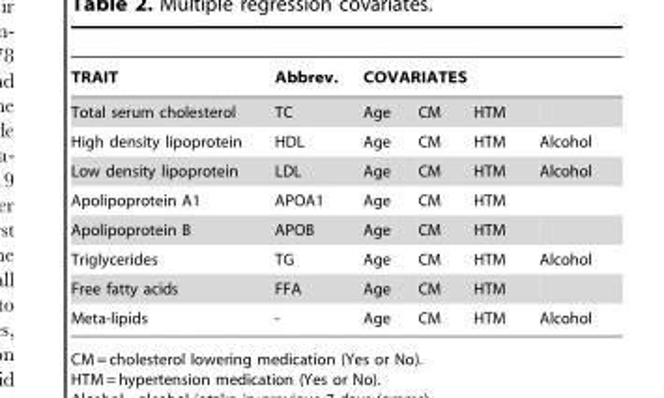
<table><thead><tr><td rowspan="2">TRAIT Total serum cholesterol</td><td rowspan="2">Abbrev. TC</td><td colspan="4">COVARIATES</td></tr><tr><td>Age</td><td>CM</td><td>HTM</td><td></td></tr></thead><tbody><tr><td>High density lipoprotein</td><td>HDL</td><td>Age</td><td>CM</td><td>HTM</td><td>Alcohol</td></tr><tr><td>Low density lipoprotein</td><td>LDL</td><td>Age</td><td>CM</td><td>HTM</td><td>Alcohol</td></tr><tr><td>Apolipoprotein A1</td><td>APOA1</td><td>Age</td><td>CM</td><td>HTM</td><td></td></tr><tr><td>Apolipoprotein B</td><td>APOB</td><td>Age</td><td>CM</td><td>HTM</td><td></td></tr><tr><td>Triglycerides</td><td>TG</td><td>Age</td><td>CM</td><td>HTM</td><td>Alcohol</td></tr><tr><td>Free fatty acids</td><td>FFA</td><td>Age</td><td>CM</td><td>HTM</td><td></td></tr><tr><td>Meta-lipids</td><td>-</td><td>Age</td><td>CM</td><td>HTM</td><td>Alcohol</td></tr></tbody></table>